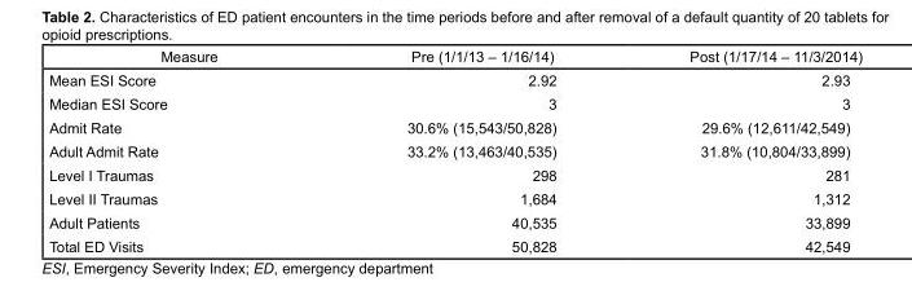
<table><thead><tr><td>Measure</td><td>Pre (1/1/13 – 1/16/14)</td><td>Post (1/17/14 – 11/3/2014)</td></tr></thead><tbody><tr><td>Mean ESI Score</td><td>2.92</td><td>2.93</td></tr><tr><td>Median ESI Score</td><td>3</td><td>3</td></tr><tr><td>Admit Rate</td><td>30.6% (15,543/50,828)</td><td>29.6% (12,611/42,549)</td></tr><tr><td>Adult Admit Rate</td><td>33.2% (13,463/40,535)</td><td>31.8% (10,804/33,899)</td></tr><tr><td>Level I Traumas</td><td>298</td><td>281</td></tr><tr><td>Level II Traumas</td><td>1,684</td><td>1,312</td></tr><tr><td>Adult Patients</td><td>40,535</td><td>33,899</td></tr><tr><td>Total ED Visits</td><td>50,828</td><td>42,549</td></tr></tbody></table>